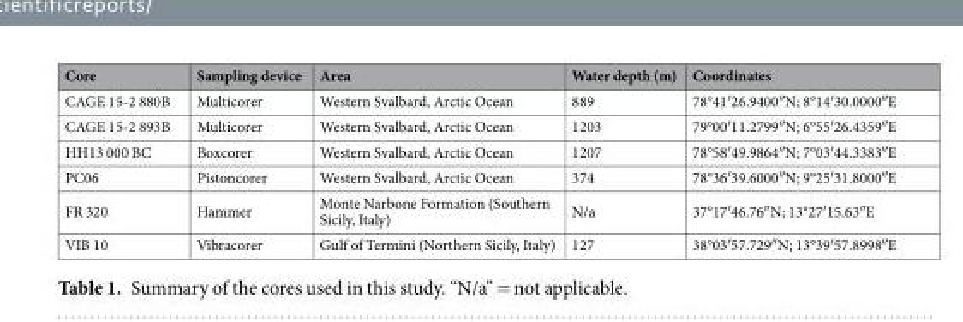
<table><thead><tr><td>Core</td><td>Sampling device</td><td>Area</td><td>Water depth (m)</td><td>Coordinates</td></tr></thead><tbody><tr><td>CAGE 15-2 880B</td><td>Multicorer</td><td>Western Svalbard, Arctic Ocean</td><td>889</td><td>78°41′26.9400″N; 8°14′30.0000″E</td></tr><tr><td>CAGE 15-2 893B</td><td>Multicorer</td><td>Western Svalbard, Arctic Ocean</td><td>1203</td><td>79°00′11.2799″N; 6°55′26.4359″E</td></tr><tr><td>HH13 000 BC</td><td>Boxcorer</td><td>Western Svalbard, Arctic Ocean</td><td>1207</td><td>78°58′49.9864″N; 7°03′44.3383″E</td></tr><tr><td>PC06</td><td>Pistoncorer</td><td>Western Svalbard, Arctic Ocean</td><td>374</td><td>78°36′39.6000″N; 9°25′31.8000″E</td></tr><tr><td>FR 320</td><td>Hammer</td><td>Monte Narbone Formation (Southern Sicily, Italy)</td><td>N/a</td><td>37°17′46.76″N; 13°27′15.63″E</td></tr><tr><td>VIB 10</td><td>Vibracorer</td><td>Gulf of Termini (Northern Sicily, Italy)</td><td>127</td><td>38°03′57.729″N; 13°39′57.8998″E</td></tr></tbody></table>